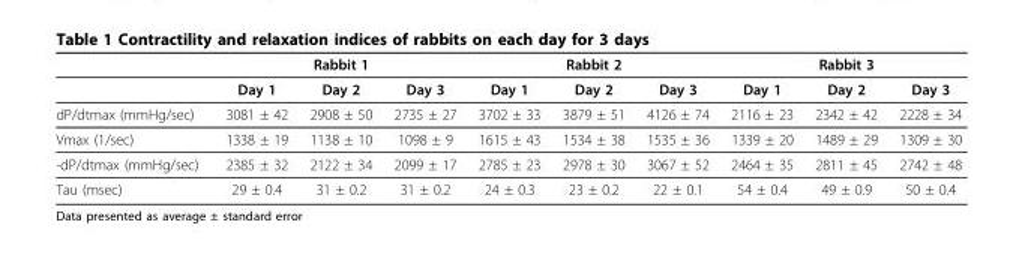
<table><thead><tr><td></td><td></td><td>Rabbit 1</td><td></td><td></td><td>Rabbit 2</td><td></td><td></td><td>Rabbit 3</td><td></td></tr></thead><tbody><tr><td></td><td>Day 1</td><td>Day 2</td><td>Day 3</td><td>Day 1</td><td>Day 2</td><td>Day 3</td><td>Day 1</td><td>Day 2</td><td>Day 3</td></tr><tr><td>dP/dtmax (mmHg/sec)</td><td>3081 ± 42</td><td>2908 ± 50</td><td>2735 ± 27</td><td>3702 ± 33</td><td>3879 ± 51</td><td>4126 ± 74</td><td>2116 ± 23</td><td>2342 ± 42</td><td>2228 ± 34</td></tr><tr><td>Vmax (1/sec)</td><td>1338 ± 19</td><td>1138 ± 10</td><td>1098 ± 9</td><td>1615 ± 43</td><td>1534 ± 38</td><td>1535 ± 36</td><td>1339 ± 20</td><td>1489 ± 29</td><td>1309 ± 30</td></tr><tr><td>-dP/dtmax (mmHg/sec)</td><td>2385 ± 32</td><td>2122 ± 34</td><td>2099 ± 17</td><td>2785 ± 23</td><td>2978 ± 30</td><td>3067 ± 52</td><td>2464 ± 35</td><td>2811 ± 45</td><td>2742 ± 48</td></tr><tr><td>Tau (msec)</td><td>29 ± 0.4</td><td>31 ± 0.2</td><td>31 ± 0.2</td><td>24 ± 0.3</td><td>23 ± 0.2</td><td>22 ± 0.1</td><td>54 ± 0.4</td><td>49 ± 0.9</td><td>50 ± 0.4</td></tr></tbody></table>